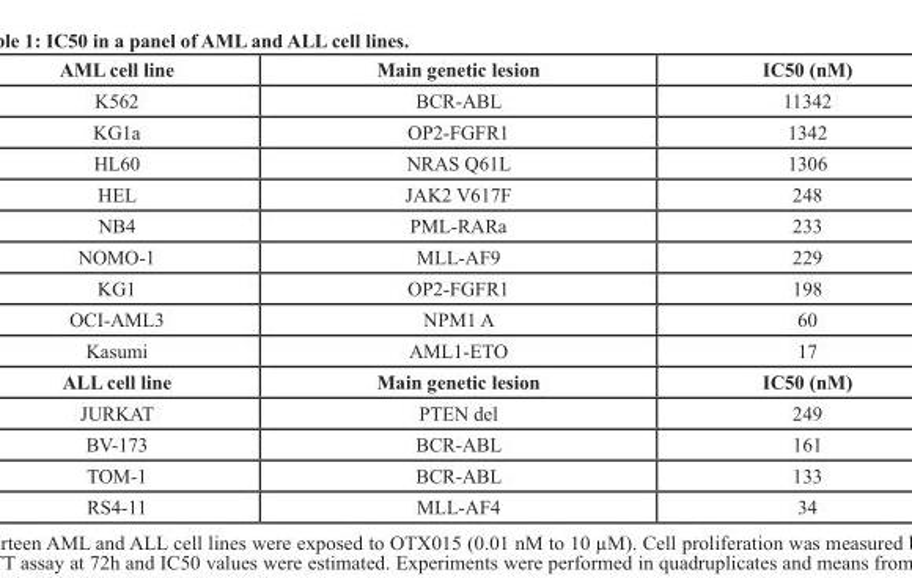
<table><tbody><tr><td>AML cell line</td><td>Main genetic lesion</td><td>IC50 (nM)</td></tr><tr><td>K562</td><td>BCR-ABL</td><td>11342</td></tr><tr><td>KG1a</td><td>OP2-FGFR1</td><td>1342</td></tr><tr><td>HL60</td><td>NRAS Q61L</td><td>1306</td></tr><tr><td>HEL</td><td>JAK2 V617F</td><td>248</td></tr><tr><td>NB4</td><td>PML-RARa</td><td>233</td></tr><tr><td>NOMO-1</td><td>MLL-AF9</td><td>229</td></tr><tr><td>KG1</td><td>OP2-FGFR1</td><td>198</td></tr><tr><td>OCI-AML3</td><td>NPM1 A</td><td>60</td></tr><tr><td>Kasumi</td><td>AML1-ETO</td><td>17</td></tr><tr><td>ALL cell line</td><td>Main genetic lesion</td><td>IC50 (nM)</td></tr><tr><td>JURKAT</td><td>PTEN del</td><td>249</td></tr><tr><td>BV-173</td><td>BCR-ABL</td><td>161</td></tr><tr><td>TOM-1</td><td>BCR-ABL</td><td>133</td></tr><tr><td>RS4-11</td><td>MLL-AF4</td><td>34</td></tr></tbody></table>